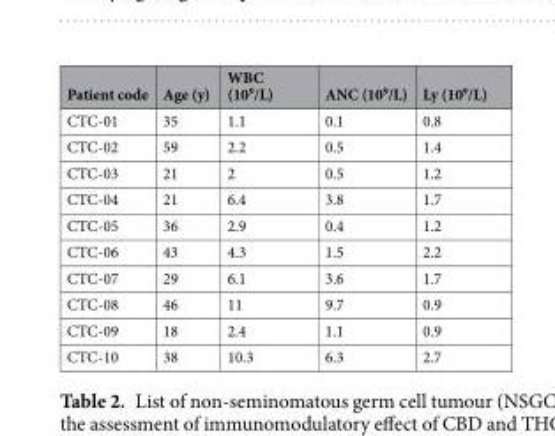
<table><thead><tr><td>Patient code</td><td>Age (y)</td><td>WBC (10<sup>9</sup>/L)</td><td>ANC (10<sup>9</sup>/L)</td><td>Ly (10<sup>9</sup>/L)</td></tr></thead><tbody><tr><td>CTC-01</td><td>35</td><td>1.1</td><td>0.1</td><td>0.8</td></tr><tr><td>CTC-02</td><td>59</td><td>2.2</td><td>0.5</td><td>1.4</td></tr><tr><td>CTC-03</td><td>21</td><td>2</td><td>0.5</td><td>1.2</td></tr><tr><td>CTC-04</td><td>21</td><td>6.4</td><td>3.8</td><td>1.7</td></tr><tr><td>CTC-05</td><td>36</td><td>2.9</td><td>0.4</td><td>1.2</td></tr><tr><td>CTC-06</td><td>43</td><td>4.3</td><td>1.5</td><td>2.2</td></tr><tr><td>CTC-07</td><td>29</td><td>6.1</td><td>3.6</td><td>1.7</td></tr><tr><td>CTC-08</td><td>46</td><td>11</td><td>9.7</td><td>0.9</td></tr><tr><td>CTC-09</td><td>18</td><td>2.4</td><td>1.1</td><td>0.9</td></tr><tr><td>CTC-10</td><td>38</td><td>10.3</td><td>6.3</td><td>2.7</td></tr></tbody></table>